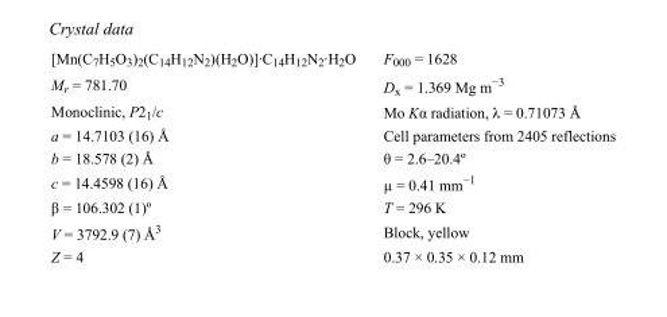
<table><tbody><tr><td>[Mn(C<sub>7</sub>H<sub>5</sub>O<sub>3</sub>)<sub>2</sub>(C<sub>14</sub>H<sub>12</sub>N<sub>2</sub>)(H<sub>2</sub>O)]·C<sub>14</sub>H<sub>12</sub>N<sub>2</sub>·H<sub>2</sub>O</td><td>F000 = 1628</td></tr><tr><td>M<sub>r</sub> = 781.70</td><td>D<sub>x</sub> = 1.369 Mg m<sup>−3</sup></td></tr><tr><td>Monoclinic, P2<sub>1</sub>/c</td><td>Mo Kα radiation, λ = 0.71073 Å</td></tr><tr><td>a = 14.7103 (16) Å</td><td>Cell parameters from 2405 reflections</td></tr><tr><td>b = 18.578 (2) Å</td><td>θ = 2.6–20.4º</td></tr><tr><td>c = 14.4598 (16) Å</td><td>µ = 0.41 mm<sup>−1</sup></td></tr><tr><td>β = 106.302 (1)º</td><td>T = 296 K</td></tr><tr><td>V = 3792.9 (7) Å<sup>3</sup></td><td>Block, yellow</td></tr><tr><td>Z = 4</td><td>0.37 × 0.35 × 0.12 mm</td></tr></tbody></table>